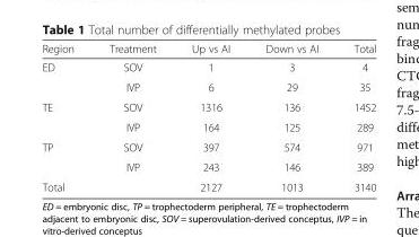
<table><thead><tr><td>Region</td><td>Treatment</td><td>Up vs AI</td><td>Down vs AI</td><td>Total</td></tr></thead><tbody><tr><td rowspan="2">ED</td><td>SOV</td><td>1</td><td>3</td><td>4</td></tr><tr><td>IVP</td><td>6</td><td>29</td><td>35</td></tr><tr><td rowspan="2">TE</td><td>SOV</td><td>1316</td><td>136</td><td>1452</td></tr><tr><td>IVP</td><td>164</td><td>125</td><td>289</td></tr><tr><td rowspan="2">TP</td><td>SOV</td><td>397</td><td>574</td><td>971</td></tr><tr><td>IVP</td><td>243</td><td>146</td><td>389</td></tr><tr><td>Total</td><td></td><td>2127</td><td>1013</td><td>3140</td></tr></tbody></table>